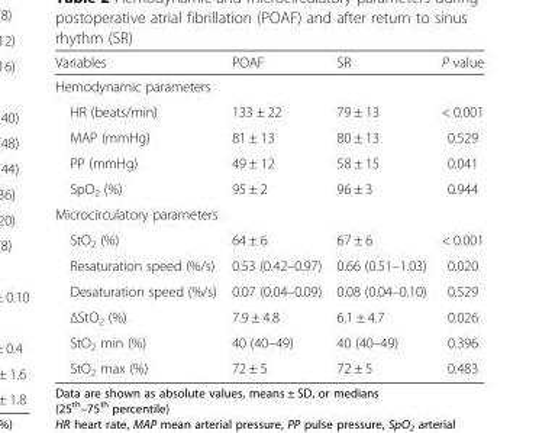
<table><thead><tr><td>Variables</td><td>POAF</td><td>SR</td><td>P value</td></tr></thead><tbody><tr><td colspan="4">Hemodynamic parameters</td></tr><tr><td>HR (beats/min)</td><td>133 ± 22</td><td>79 ± 13</td><td>&lt; 0.001</td></tr><tr><td>MAP (mmHg)</td><td>81 ± 13</td><td>80 ± 13</td><td>0.529</td></tr><tr><td>PP (mmHg)</td><td>49 ± 12</td><td>58 ± 15</td><td>0.041</td></tr><tr><td>SpO<sub>2</sub> (%)</td><td>95 ± 2</td><td>96 ± 3</td><td>0.944</td></tr><tr><td colspan="4">Microcirculatory parameters</td></tr><tr><td>StO<sub>2</sub> (%)</td><td>64 ± 6</td><td>67 ± 6</td><td>&lt; 0.001</td></tr><tr><td>Resaturation speed (%/s)</td><td>0.53 (0.42–0.97)</td><td>0.66 (0.51–1.03)</td><td>0.020</td></tr><tr><td>Desaturation speed (%/s)</td><td>0.07 (0.04–0.09)</td><td>0.08 (0.04–0.10)</td><td>0.529</td></tr><tr><td>ΔStO2 (%)</td><td>7.9 ± 4.8</td><td>6.1 ± 4.7</td><td>0.026</td></tr><tr><td>StO<sub>2</sub> min (%)</td><td>40 (40–49)</td><td>40 (40–49)</td><td>0.396</td></tr><tr><td>StO<sub>2</sub> max (%)</td><td>72 ± 5</td><td>72 ± 5</td><td>0.483</td></tr></tbody></table>